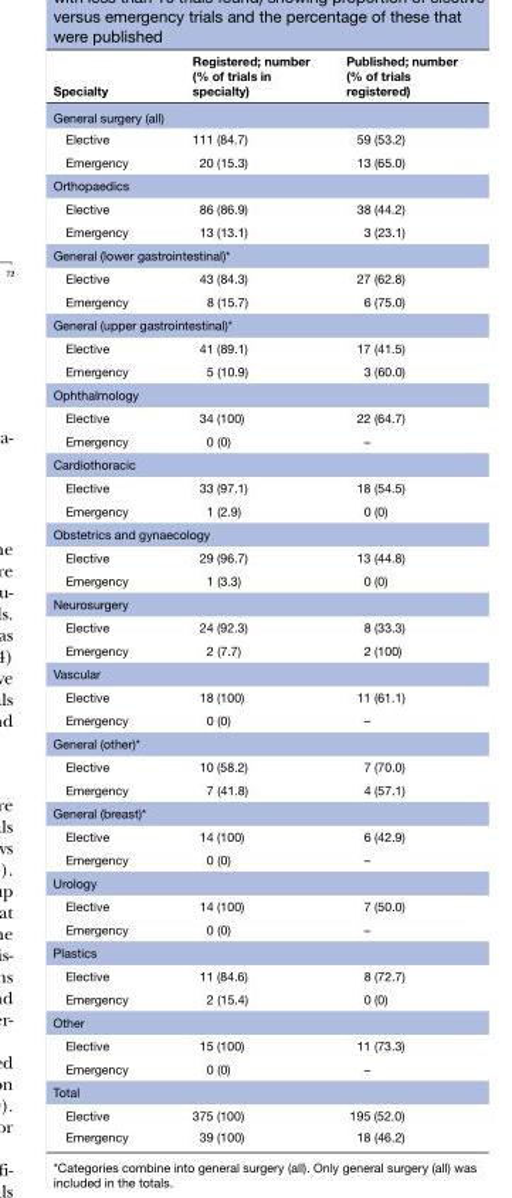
<table><thead><tr><td>Specialty</td><td>Registered; number (% of trials in specialty)</td><td>Published; number (% of trials registered)</td></tr></thead><tbody><tr><td colspan="3">General surgery (all)</td></tr><tr><td>Elective</td><td>111 (84.7)</td><td>59 (53.2)</td></tr><tr><td>Emergency</td><td>20 (15.3)</td><td>13 (65.0)</td></tr><tr><td colspan="3">Orthopaedics</td></tr><tr><td>Elective</td><td>86 (86.9)</td><td>38 (44.2)</td></tr><tr><td>Emergency</td><td>13 (13.1)</td><td>3 (23.1)</td></tr><tr><td colspan="3">General (lower gastrointestinal)*</td></tr><tr><td>Elective</td><td>43 (84.3)</td><td>27 (62.8)</td></tr><tr><td>Emergency</td><td>8 (15.7)</td><td>6 (75.0)</td></tr><tr><td colspan="3">General (upper gastrointestinal)*</td></tr><tr><td>Elective</td><td>41 (89.1)</td><td>17 (41.5)</td></tr><tr><td>Emergency</td><td>5 (10.9)</td><td>3 (60.0)</td></tr><tr><td colspan="3">Ophthalmology</td></tr><tr><td>Elective</td><td>34 (100)</td><td>22 (64.7)</td></tr><tr><td>Emergency</td><td>0 (0)</td><td>–</td></tr><tr><td colspan="3">Cardiothoracic</td></tr><tr><td>Elective</td><td>33 (97.1)</td><td>18 (54.5)</td></tr><tr><td>Emergency</td><td>1 (2.9)</td><td>0 (0)</td></tr><tr><td colspan="3">Obstetrics and gynaecology</td></tr><tr><td>Elective</td><td>29 (96.7)</td><td>13 (44.8)</td></tr><tr><td>Emergency</td><td>1 (3.3)</td><td>0 (0)</td></tr><tr><td colspan="3">Neurosurgery</td></tr><tr><td>Elective</td><td>24 (92.3)</td><td>8 (33.3)</td></tr><tr><td>Emergency</td><td>2 (7.7)</td><td>2 (100)</td></tr><tr><td colspan="3">Vascular</td></tr><tr><td>Elective</td><td>18 (100)</td><td>11 (61.1)</td></tr><tr><td>Emergency</td><td>0 (0)</td><td>–</td></tr><tr><td colspan="3">General (other)*</td></tr><tr><td>Elective</td><td>10 (58.2)</td><td>7 (70.0)</td></tr><tr><td>Emergency</td><td>7 (41.8)</td><td>4 (57.1)</td></tr><tr><td colspan="3">General (breast)*</td></tr><tr><td>Elective</td><td>14 (100)</td><td>6 (42.9)</td></tr><tr><td>Emergency</td><td>0 (0)</td><td>–</td></tr><tr><td colspan="3">Urology</td></tr><tr><td>Elective</td><td>14 (100)</td><td>7 (50.0)</td></tr><tr><td>Emergency</td><td>0 (0)</td><td>–</td></tr><tr><td colspan="3">Plastics</td></tr><tr><td>Elective</td><td>11 (84.6)</td><td>8 (72.7)</td></tr><tr><td>Emergency</td><td>2 (15.4)</td><td>0 (0)</td></tr><tr><td colspan="3">Other</td></tr><tr><td>Elective</td><td>15 (100)</td><td>11 (73.3)</td></tr><tr><td>Emergency</td><td>0 (0)</td><td>–</td></tr><tr><td colspan="3">Total</td></tr><tr><td>Elective</td><td>375 (100)</td><td>195 (52.0)</td></tr><tr><td>Emergency</td><td>39 (100)</td><td>18 (46.2)</td></tr></tbody></table>